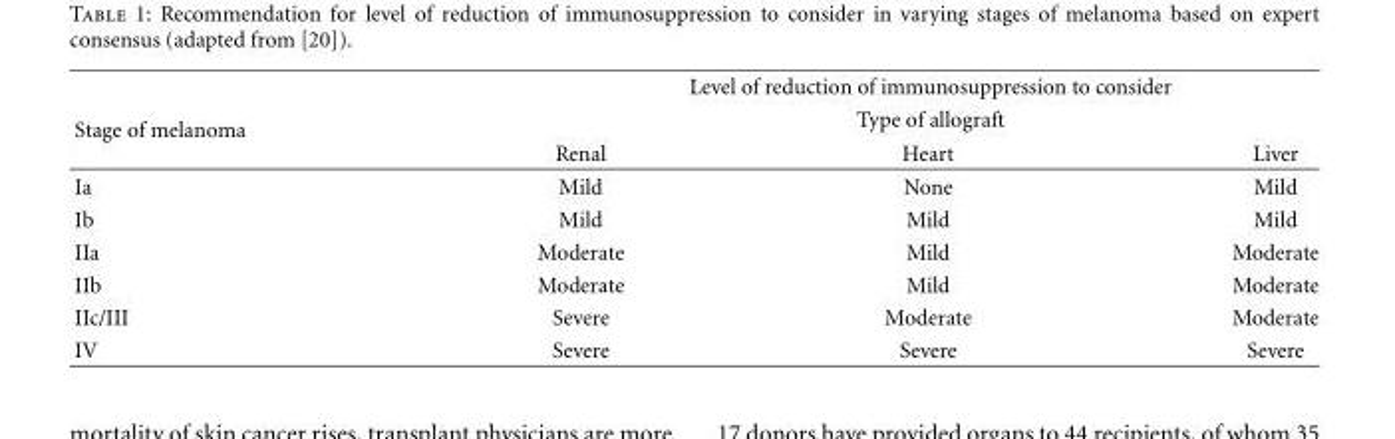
<table><thead><tr><td rowspan="3">Stage of melanoma</td><td rowspan="2" colspan="3">Level of reduction of immunosuppression to consider Type of allograft</td></tr><tr></tr><tr><td>Renal</td><td>Heart</td><td>Liver</td></tr></thead><tbody><tr><td>Ia</td><td>Mild</td><td>None</td><td>Mild</td></tr><tr><td>Ib</td><td>Mild</td><td>Mild</td><td>Mild</td></tr><tr><td>IIa</td><td>Moderate</td><td>Mild</td><td>Moderate</td></tr><tr><td>IIb</td><td>Moderate</td><td>Mild</td><td>Moderate</td></tr><tr><td>IIc/III</td><td>Severe</td><td>Moderate</td><td>Moderate</td></tr><tr><td>IV</td><td>Severe</td><td>Severe</td><td>Severe</td></tr></tbody></table>